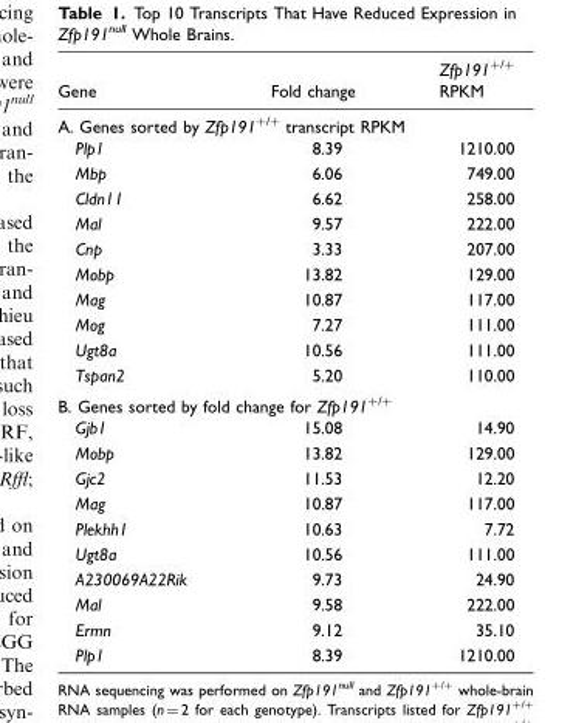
<table><thead><tr><td>Gene</td><td>Fold change</td><td>Zfp191<sup>+/+</sup> RPKM</td></tr></thead><tbody><tr><td colspan="3">A. Genes sorted by Zfp191<sup>+/+</sup> transcript RPKM</td></tr><tr><td>Plp1</td><td>8.39</td><td>1210.00</td></tr><tr><td>Mbp</td><td>6.06</td><td>749.00</td></tr><tr><td>Cldn11</td><td>6.62</td><td>258.00</td></tr><tr><td>Mal</td><td>9.57</td><td>222.00</td></tr><tr><td>Cnp</td><td>3.33</td><td>207.00</td></tr><tr><td>Mobp</td><td>13.82</td><td>129.00</td></tr><tr><td>Mag</td><td>10.87</td><td>117.00</td></tr><tr><td>Mog</td><td>7.27</td><td>111.00</td></tr><tr><td>Ugt8a</td><td>10.56</td><td>111.00</td></tr><tr><td>Tspan2</td><td>5.20</td><td>110.00</td></tr><tr><td colspan="3">B. Genes sorted by fold change for Zfp191<sup>+/+</sup></td></tr><tr><td>Gjb1</td><td>15.08</td><td>14.90</td></tr><tr><td>Mobp</td><td>13.82</td><td>129.00</td></tr><tr><td>Gjc2</td><td>11.53</td><td>12.20</td></tr><tr><td>Mag</td><td>10.87</td><td>117.00</td></tr><tr><td>Plekhh1</td><td>10.63</td><td>7.72</td></tr><tr><td>Ugt8a</td><td>10.56</td><td>111.00</td></tr><tr><td>A230069A22Rik</td><td>9.73</td><td>24.90</td></tr><tr><td>Mal</td><td>9.58</td><td>222.00</td></tr><tr><td>Ermn</td><td>9.12</td><td>35.10</td></tr><tr><td>Plp1</td><td>8.39</td><td>1210.00</td></tr></tbody></table>